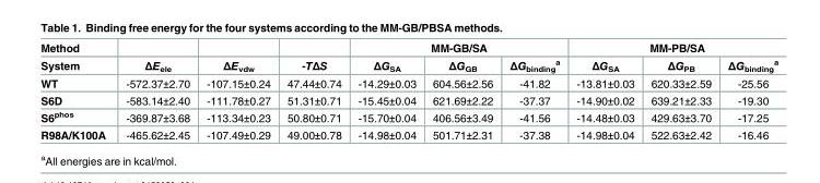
<table><thead><tr><td rowspan="2">Method System</td><td rowspan="2">ΔE<sub>ele</sub></td><td rowspan="2">ΔE<sub>vdw</sub></td><td rowspan="2">-TΔS</td><td colspan="3">MM-GB/SA</td><td colspan="3">MM-PB/SA</td></tr><tr><td>ΔG<sub>SA</sub></td><td>ΔG<sub>GB</sub></td><td>ΔG<sub>binding</sub> <sup>a</sup></td><td>ΔG<sub>SA</sub></td><td>ΔG<sub>PB</sub></td><td>ΔG<sub>binding</sub> <sup>a</sup></td></tr></thead><tbody><tr><td>WT</td><td>-572.37±2.70</td><td>-107.15±0.24</td><td>47.44±0.74</td><td>-14.29±0.03</td><td>604.56±2.56</td><td>-41.82</td><td>-13.81±0.03</td><td>620.33±2.59</td><td>-25.56</td></tr><tr><td>S6D</td><td>-583.14±2.40</td><td>-111.78±0.27</td><td>51.31±0.71</td><td>-15.45±0.04</td><td>621.69±2.22</td><td>-37.37</td><td>-14.90±0.02</td><td>639.21±2.33</td><td>-19.30</td></tr><tr><td>S6<sup>phos</sup></td><td>-369.87±3.68</td><td>-113.34±0.23</td><td>50.80±0.71</td><td>-15.70±0.04</td><td>406.56±3.49</td><td>-41.56</td><td>-14.48±0.03</td><td>429.63±3.70</td><td>-17.25</td></tr><tr><td>R98A/K100A</td><td>-465.62±2.45</td><td>-107.49±0.29</td><td>49.00±0.78</td><td>-14.98±0.04</td><td>501.71±2.31</td><td>-37.38</td><td>-14.98±0.04</td><td>522.63±2.42</td><td>-16.46</td></tr></tbody></table>